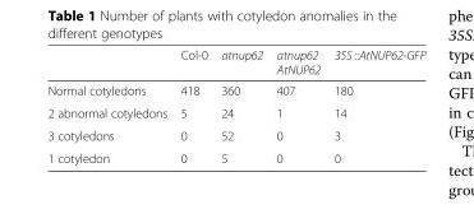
<table><thead><tr><td></td><td>Col-0</td><td>atnup62</td><td>atnup62 AtNUP62</td><td>35S ::AtNUP62-GFP</td></tr></thead><tbody><tr><td>Normal cotyledons</td><td>418</td><td>360</td><td>407</td><td>180</td></tr><tr><td>2 abnormal cotyledons</td><td>5</td><td>24</td><td>1</td><td>14</td></tr><tr><td>3 cotyledons</td><td>0</td><td>52</td><td>0</td><td>3</td></tr><tr><td>1 cotyledon</td><td>0</td><td>5</td><td>0</td><td>0</td></tr></tbody></table>